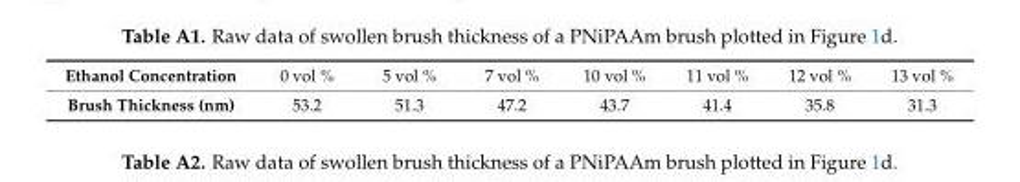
<table><tbody><tr><td>Ethanol Concentration</td><td>0 vol %</td><td>5 vol %</td><td>7 vol %</td><td>10 vol %</td><td>11 vol %</td><td>12 vol %</td><td>13 vol %</td></tr><tr><td>Brush Thickness (nm)</td><td>53.2</td><td>51.3</td><td>47.2</td><td>43.7</td><td>41.4</td><td>35.8</td><td>31.3</td></tr></tbody></table>